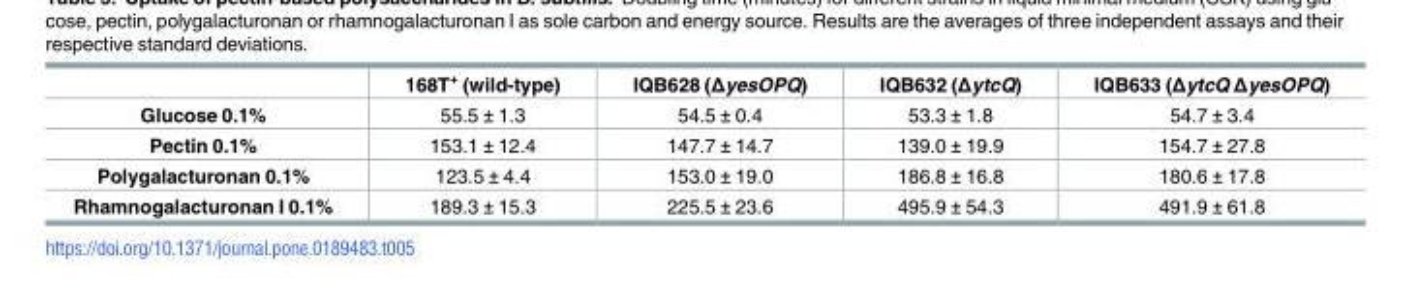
<table><thead><tr><td></td><td>168T<sup>+</sup> (wild-type)</td><td>IQB628 (ΔyesOPQ)</td><td>IQB632 (ΔytcQ)</td><td>IQB633 (ΔytcQ ΔyesOPQ)</td></tr></thead><tbody><tr><td>Glucose 0.1%</td><td>55.5 ± 1.3</td><td>54.5 ± 0.4</td><td>53.3 ± 1.8</td><td>54.7 ± 3.4</td></tr><tr><td>Pectin 0.1%</td><td>153.1 ± 12.4</td><td>147.7 ± 14.7</td><td>139.0 ± 19.9</td><td>154.7 ± 27.8</td></tr><tr><td>Polygalacturonan 0.1%</td><td>123.5 ± 4.4</td><td>153.0 ± 19.0</td><td>186.8 ± 16.8</td><td>180.6 ± 17.8</td></tr><tr><td>Rhamnogalacturonan I 0.1%</td><td>189.3 ± 15.3</td><td>225.5 ± 23.6</td><td>495.9 ± 54.3</td><td>491.9 ± 61.8</td></tr></tbody></table>